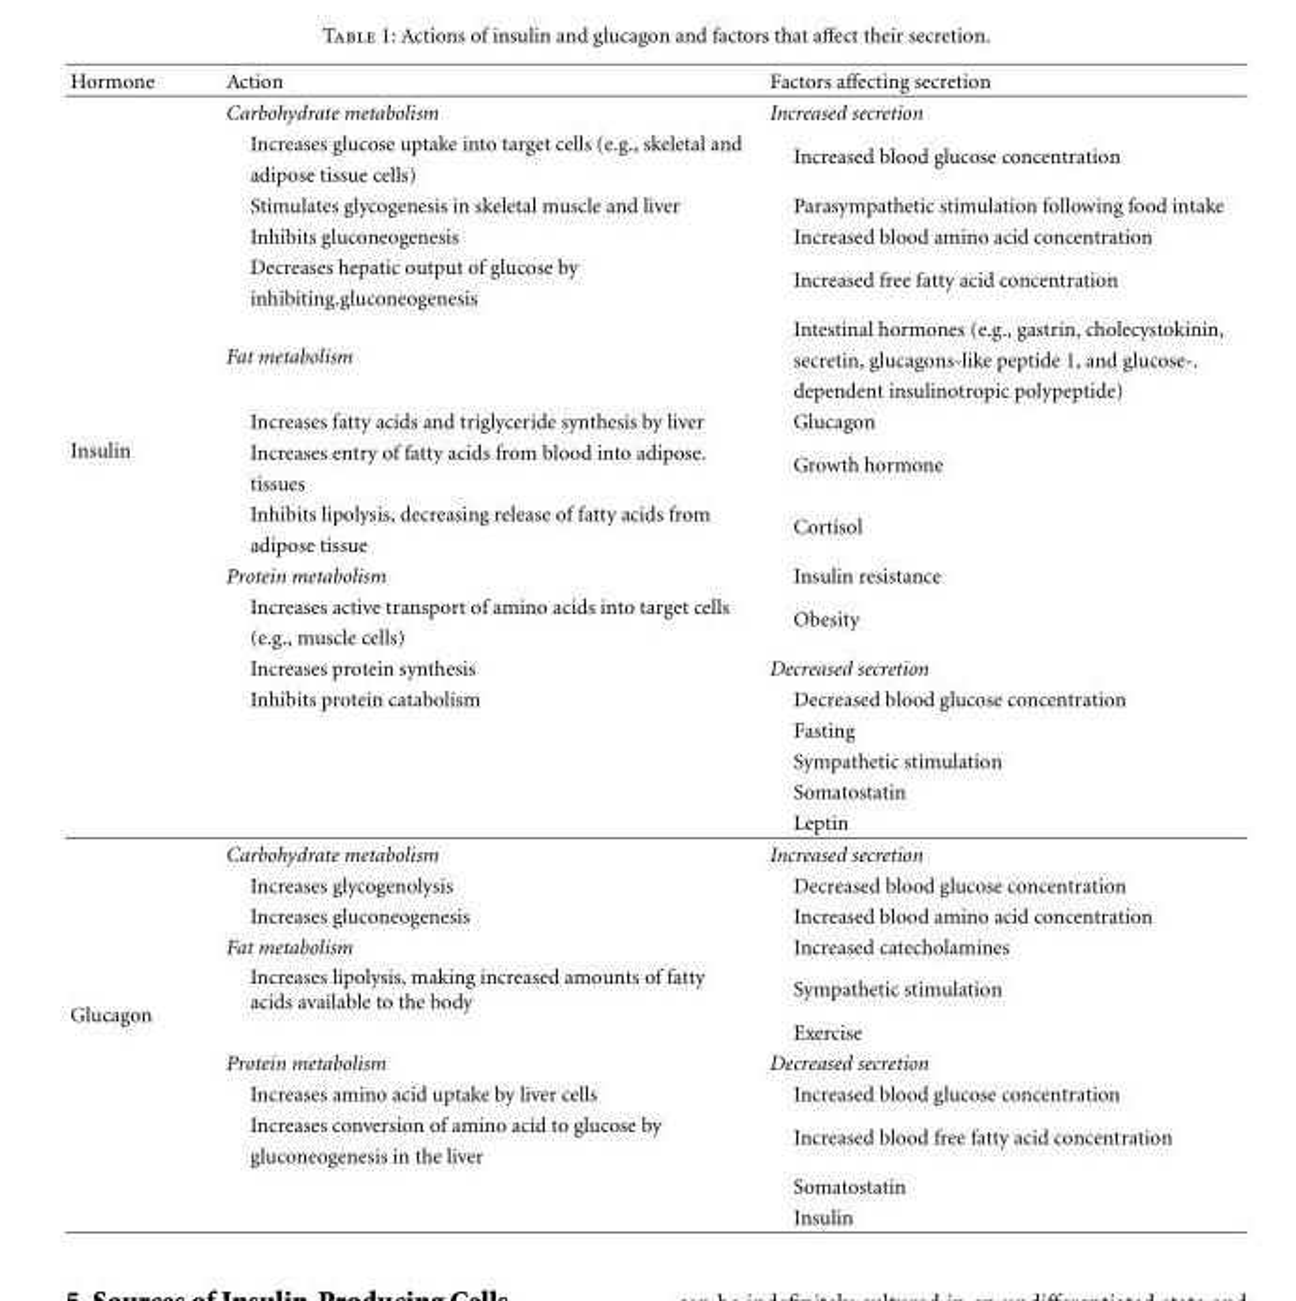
<table><thead><tr><td>Hormone</td><td>Action</td><td>Factors affecting secretion</td></tr></thead><tbody><tr><td rowspan="24">Insulin</td><td>Carbohydrate metabolism</td><td>Increased secretion</td></tr><tr><td>Increases glucose uptake into target cells (e.g., skeletal and</td><td rowspan="2">Increased blood glucose concentration</td></tr><tr><td>adipose tissue cells)</td></tr><tr><td>Stimulates glycogenesis in skeletal muscle and liver</td><td>Parasympathetic stimulation following food intake</td></tr><tr><td>Inhibits gluconeogenesis</td><td>Increased blood amino acid concentration</td></tr><tr><td>Decreases hepatic output of glucose by</td><td rowspan="2">Increased free fatty acid concentration</td></tr><tr><td>inhibiting.gluconeogenesis</td></tr><tr><td rowspan="3">Fat metabolism</td><td>Intestinal hormones (e.g., gastrin, cholecystokinin,</td></tr><tr><td>secretin, glucagons-like peptide 1, and glucose-.</td></tr><tr><td>dependent insulinotropic polypeptide)</td></tr><tr><td>Increases fatty acids and triglyceride synthesis by liver</td><td>Glucagon</td></tr><tr><td>Increases entry of fatty acids from blood into adipose.</td><td rowspan="2">Growth hormone</td></tr><tr><td>tissues</td></tr><tr><td>Inhibits lipolysis, decreasing release of fatty acids from</td><td rowspan="2">Cortisol</td></tr><tr><td>adipose tissue</td></tr><tr><td>Protein metabolism</td><td>Insulin resistance</td></tr><tr><td>Increases active transport of amino acids into target cells</td><td rowspan="2">Obesity</td></tr><tr><td>(e.g., muscle cells)</td></tr><tr><td>Increases protein synthesis</td><td>Decreased secretion</td></tr><tr><td>Inhibits protein catabolism</td><td>Decreased blood glucose concentration</td></tr><tr><td></td><td>Fasting</td></tr><tr><td></td><td>Sympathetic stimulation</td></tr><tr><td></td><td>Somatostatin</td></tr><tr><td></td><td>Leptin</td></tr><tr><td rowspan="12">Glucagon</td><td>Carbohydrate metabolism</td><td>Increased secretion</td></tr><tr><td>Increases glycogenolysis</td><td>Decreased blood glucose concentration</td></tr><tr><td>Increases gluconeogenesis</td><td>Increased blood amino acid concentration</td></tr><tr><td>Fat metabolism</td><td>Increased catecholamines</td></tr><tr><td>Increases lipolysis, making increased amounts of fatty acids available to the body</td><td>Sympathetic stimulation</td></tr><tr><td></td><td>Exercise</td></tr><tr><td>Protein metabolism</td><td>Decreased secretion</td></tr><tr><td>Increases amino acid uptake by liver cells</td><td>Increased blood glucose concentration</td></tr><tr><td>Increases conversion of amino acid to glucose by</td><td rowspan="2">Increased blood free fatty acid concentration</td></tr><tr><td>gluconeogenesis in the liver</td></tr><tr><td></td><td>Somatostatin</td></tr><tr><td></td><td>Insulin</td></tr></tbody></table>